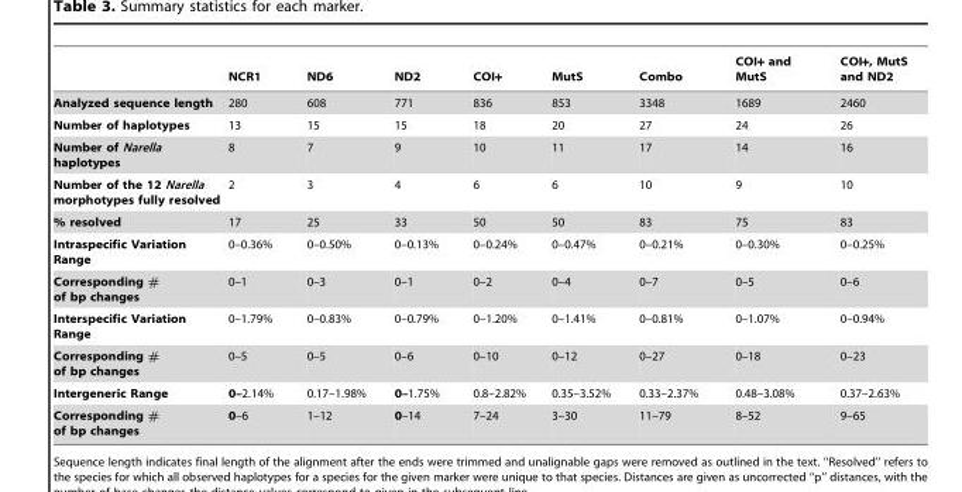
<table><thead><tr><td></td><td>NCR1</td><td>ND6</td><td>ND2</td><td>COI+</td><td>MutS</td><td>Combo</td><td>COI+ and MutS</td><td>COI+, MutS and ND2</td></tr></thead><tbody><tr><td>Analyzed sequence length</td><td>280</td><td>608</td><td>771</td><td>836</td><td>853</td><td>3348</td><td>1689</td><td>2460</td></tr><tr><td>Number of haplotypes</td><td>13</td><td>15</td><td>15</td><td>18</td><td>20</td><td>27</td><td>24</td><td>26</td></tr><tr><td>Number of Narella haplotypes</td><td>8</td><td>7</td><td>9</td><td>10</td><td>11</td><td>17</td><td>14</td><td>16</td></tr><tr><td>Number of the 12 Narella morphotypes fully resolved</td><td>2</td><td>3</td><td>4</td><td>6</td><td>6</td><td>10</td><td>9</td><td>10</td></tr><tr><td>% resolved</td><td>17</td><td>25</td><td>33</td><td>50</td><td>50</td><td>83</td><td>75</td><td>83</td></tr><tr><td>Intraspecific Variation Range</td><td>0–0.36%</td><td>0–0.50%</td><td>0–0.13%</td><td>0–0.24%</td><td>0–0.47%</td><td>0–0.21%</td><td>0–0.30%</td><td>0–0.25%</td></tr><tr><td>Corresponding # of bp changes</td><td>0–1</td><td>0–3</td><td>0–1</td><td>0–2</td><td>0–4</td><td>0–7</td><td>0–5</td><td>0–6</td></tr><tr><td>Interspecific Variation Range</td><td>0–1.79%</td><td>0–0.83%</td><td>0–0.79%</td><td>0–1.20%</td><td>0–1.41%</td><td>0–0.81%</td><td>0–1.07%</td><td>0–0.94%</td></tr><tr><td>Corresponding # of bp changes</td><td>0–5</td><td>0–5</td><td>0–6</td><td>0–10</td><td>0–12</td><td>0–27</td><td>0–18</td><td>0–23</td></tr><tr><td>Intergeneric Range</td><td>0–2.14%</td><td>0.17–1.98%</td><td>0–1.75%</td><td>0.8–2.82%</td><td>0.35–3.52%</td><td>0.33–2.37%</td><td>0.48–3.08%</td><td>0.37–2.63%</td></tr><tr><td>Corresponding # of bp changes</td><td>0–6</td><td>1–12</td><td>0–14</td><td>7–24</td><td>3–30</td><td>11–79</td><td>8–52</td><td>9–65</td></tr></tbody></table>